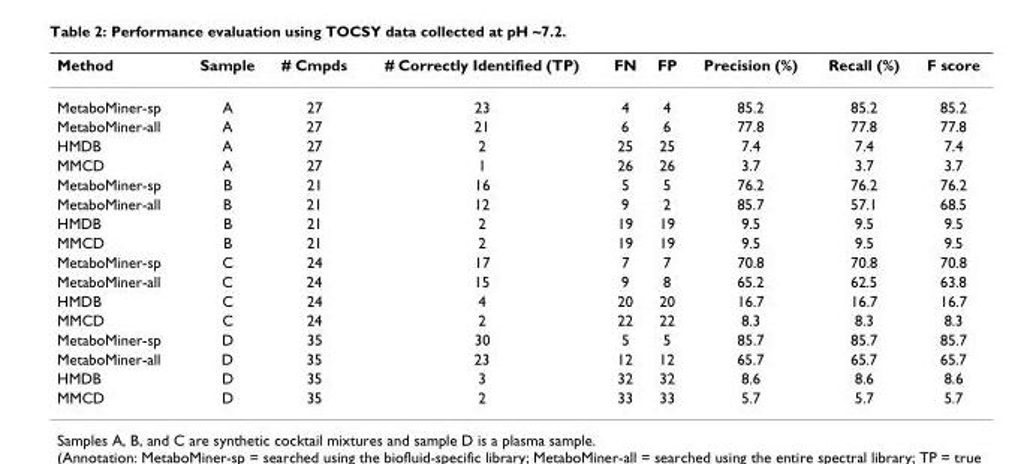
<table><thead><tr><td>Method</td><td>Sample</td><td># Cmpds</td><td># Correctly Identified (TP)</td><td>FN</td><td>FP</td><td>Precision (%)</td><td>Recall (%)</td><td>F score</td></tr></thead><tbody><tr><td>MetaboMiner-sp</td><td>A</td><td>27</td><td>23</td><td>4</td><td>4</td><td>85.2</td><td>85.2</td><td>85.2</td></tr><tr><td>MetaboMiner-all</td><td>A</td><td>27</td><td>21</td><td>6</td><td>6</td><td>77.8</td><td>77.8</td><td>77.8</td></tr><tr><td>HMDB</td><td>A</td><td>27</td><td>2</td><td>25</td><td>25</td><td>7.4</td><td>7.4</td><td>7.4</td></tr><tr><td>MMCD</td><td>A</td><td>27</td><td>1</td><td>26</td><td>26</td><td>3.7</td><td>3.7</td><td>3.7</td></tr><tr><td>MetaboMiner-sp</td><td>B</td><td>21</td><td>16</td><td>5</td><td>5</td><td>76.2</td><td>76.2</td><td>76.2</td></tr><tr><td>MetaboMiner-all</td><td>B</td><td>21</td><td>12</td><td>9</td><td>2</td><td>85.7</td><td>57.1</td><td>68.5</td></tr><tr><td>HMDB</td><td>B</td><td>21</td><td>2</td><td>19</td><td>19</td><td>9.5</td><td>9.5</td><td>9.5</td></tr><tr><td>MMCD</td><td>B</td><td>21</td><td>2</td><td>19</td><td>19</td><td>9.5</td><td>9.5</td><td>9.5</td></tr><tr><td>MetaboMiner-sp</td><td>C</td><td>24</td><td>17</td><td>7</td><td>7</td><td>70.8</td><td>70.8</td><td>70.8</td></tr><tr><td>MetaboMiner-all</td><td>C</td><td>24</td><td>15</td><td>9</td><td>8</td><td>65.2</td><td>62.5</td><td>63.8</td></tr><tr><td>HMDB</td><td>C</td><td>24</td><td>4</td><td>20</td><td>20</td><td>16.7</td><td>16.7</td><td>16.7</td></tr><tr><td>MMCD</td><td>C</td><td>24</td><td>2</td><td>22</td><td>22</td><td>8.3</td><td>8.3</td><td>8.3</td></tr><tr><td>MetaboMiner-sp</td><td>D</td><td>35</td><td>30</td><td>5</td><td>5</td><td>85.7</td><td>85.7</td><td>85.7</td></tr><tr><td>MetaboMiner-all</td><td>D</td><td>35</td><td>23</td><td>12</td><td>12</td><td>65.7</td><td>65.7</td><td>65.7</td></tr><tr><td>HMDB</td><td>D</td><td>35</td><td>3</td><td>32</td><td>32</td><td>8.6</td><td>8.6</td><td>8.6</td></tr><tr><td>MMCD</td><td>D</td><td>35</td><td>2</td><td>33</td><td>33</td><td>5.7</td><td>5.7</td><td>5.7</td></tr></tbody></table>